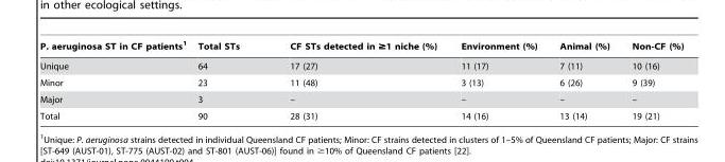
<table><thead><tr><td>P. aeruginosa ST in CF patients<sup>1</sup></td><td>Total STs</td><td>CF STs detected in ≥1 niche (%)</td><td>Environment (%)</td><td>Animal (%)</td><td>Non-CF (%)</td></tr></thead><tbody><tr><td>Unique</td><td>64</td><td>17 (27)</td><td>11 (17)</td><td>7 (11)</td><td>10 (16)</td></tr><tr><td>Minor</td><td>23</td><td>11 (48)</td><td>3 (13)</td><td>6 (26)</td><td>9 (39)</td></tr><tr><td>Major</td><td>3</td><td>–</td><td>–</td><td>–</td><td>–</td></tr><tr><td>Total</td><td>90</td><td>28 (31)</td><td>14 (16)</td><td>13 (14)</td><td>19 (21)</td></tr></tbody></table>